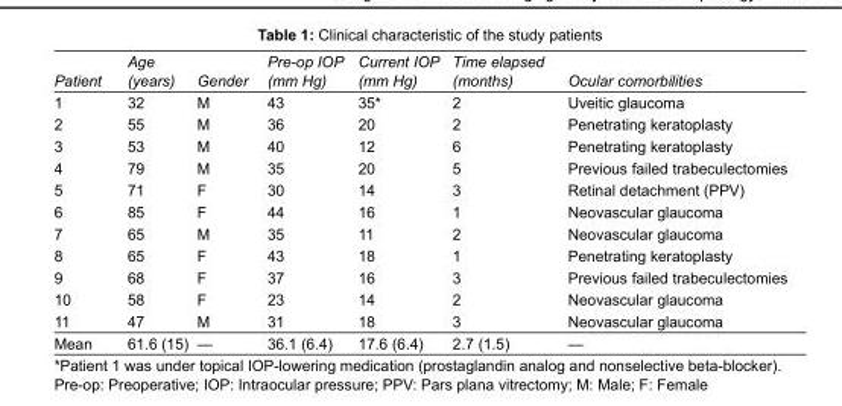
<table><tbody><tr><td>Patient</td><td>Age (years)</td><td>Gender</td><td>Pre-op IOP (mm Hg)</td><td>Current IOP (mm Hg)</td><td>Time elapsed (months)</td><td>Ocular comorbilities</td></tr><tr><td>1</td><td>32</td><td>M</td><td>43</td><td>35*</td><td>2</td><td>Uveitic glaucoma</td></tr><tr><td>2</td><td>55</td><td>M</td><td>36</td><td>20</td><td>2</td><td>Penetrating keratoplasty</td></tr><tr><td>3</td><td>53</td><td>M</td><td>40</td><td>12</td><td>6</td><td>Penetrating keratoplasty</td></tr><tr><td>4</td><td>79</td><td>M</td><td>35</td><td>20</td><td>5</td><td>Previous failed trabeculectomies</td></tr><tr><td>5</td><td>71</td><td>F</td><td>30</td><td>14</td><td>3</td><td>Retinal detachment (PPV)</td></tr><tr><td>6</td><td>85</td><td>F</td><td>44</td><td>16</td><td>1</td><td>Neovascular glaucoma</td></tr><tr><td>7</td><td>65</td><td>M</td><td>35</td><td>11</td><td>2</td><td>Neovascular glaucoma</td></tr><tr><td>8</td><td>65</td><td>F</td><td>43</td><td>18</td><td>1</td><td>Penetrating keratoplasty</td></tr><tr><td>9</td><td>68</td><td>F</td><td>37</td><td>16</td><td>3</td><td>Previous failed trabeculectomies</td></tr><tr><td>10</td><td>58</td><td>F</td><td>23</td><td>14</td><td>2</td><td>Neovascular glaucoma</td></tr><tr><td>11</td><td>47</td><td>M</td><td>31</td><td>18</td><td>3</td><td>Neovascular glaucoma</td></tr><tr><td>Mean</td><td>61.6 (15)</td><td>—</td><td>36.1 (6.4)</td><td>17.6 (6.4)</td><td>2.7 (1.5)</td><td>—</td></tr></tbody></table>